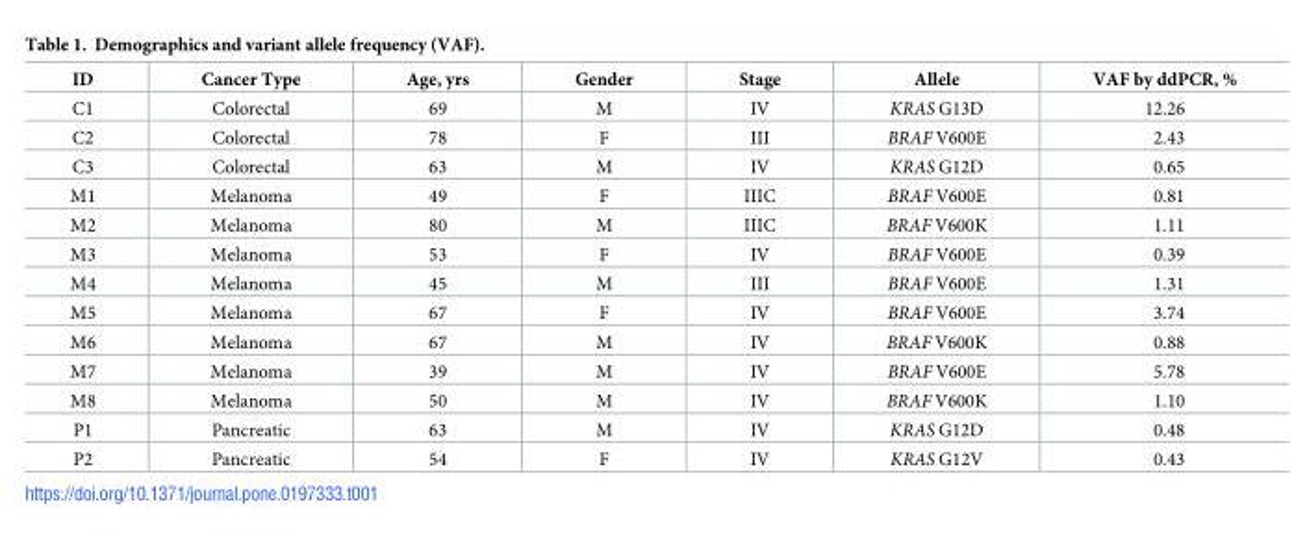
<table><thead><tr><td>ID</td><td>Cancer Type</td><td>Age, yrs</td><td>Gender</td><td>Stage</td><td>Allele</td><td>VAF by ddPCR, %</td></tr></thead><tbody><tr><td>C1</td><td>Colorectal</td><td>69</td><td>M</td><td>IV</td><td>KRAS G13D</td><td>12.26</td></tr><tr><td>C2</td><td>Colorectal</td><td>78</td><td>F</td><td>III</td><td>BRAF V600E</td><td>2.43</td></tr><tr><td>C3</td><td>Colorectal</td><td>63</td><td>M</td><td>IV</td><td>KRAS G12D</td><td>0.65</td></tr><tr><td>M1</td><td>Melanoma</td><td>49</td><td>F</td><td>IIIC</td><td>BRAF V600E</td><td>0.81</td></tr><tr><td>M2</td><td>Melanoma</td><td>80</td><td>M</td><td>IIIC</td><td>BRAF V600K</td><td>1.11</td></tr><tr><td>M3</td><td>Melanoma</td><td>53</td><td>F</td><td>IV</td><td>BRAF V600E</td><td>0.39</td></tr><tr><td>M4</td><td>Melanoma</td><td>45</td><td>M</td><td>III</td><td>BRAF V600E</td><td>1.31</td></tr><tr><td>M5</td><td>Melanoma</td><td>67</td><td>F</td><td>IV</td><td>BRAF V600E</td><td>3.74</td></tr><tr><td>M6</td><td>Melanoma</td><td>67</td><td>M</td><td>IV</td><td>BRAF V600K</td><td>0.88</td></tr><tr><td>M7</td><td>Melanoma</td><td>39</td><td>M</td><td>IV</td><td>BRAF V600E</td><td>5.78</td></tr><tr><td>M8</td><td>Melanoma</td><td>50</td><td>M</td><td>IV</td><td>BRAF V600K</td><td>1.10</td></tr><tr><td>P1</td><td>Pancreatic</td><td>63</td><td>M</td><td>IV</td><td>KRAS G12D</td><td>0.48</td></tr><tr><td>P2</td><td>Pancreatic</td><td>54</td><td>F</td><td>IV</td><td>KRAS G12V</td><td>0.43</td></tr></tbody></table>